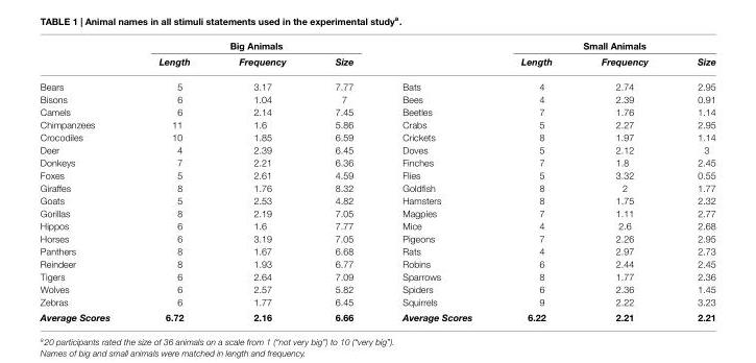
<table><thead><tr><td rowspan="2"></td><td colspan="3">Big Animals</td><td rowspan="2"></td><td colspan="3">Small Animals</td></tr><tr><td>Length</td><td>Frequency</td><td>Size</td><td>Length</td><td>Frequency</td><td>Size</td></tr></thead><tbody><tr><td>Bears</td><td>5</td><td>3.17</td><td>7.77</td><td>Bats</td><td>4</td><td>2.74</td><td>2.95</td></tr><tr><td>Bisons</td><td>6</td><td>1.04</td><td>7</td><td>Bees</td><td>4</td><td>2.39</td><td>0.91</td></tr><tr><td>Camels</td><td>6</td><td>2.14</td><td>7.45</td><td>Beetles</td><td>7</td><td>1.76</td><td>1.14</td></tr><tr><td>Chimpanzees</td><td>11</td><td>1.6</td><td>5.86</td><td>Crabs</td><td>5</td><td>2.27</td><td>2.95</td></tr><tr><td>Crocodiles</td><td>10</td><td>1.85</td><td>6.59</td><td>Crickets</td><td>8</td><td>1.97</td><td>1.14</td></tr><tr><td>Deer</td><td>4</td><td>2.39</td><td>6.45</td><td>Doves</td><td>5</td><td>2.12</td><td>3</td></tr><tr><td>Donkeys</td><td>7</td><td>2.21</td><td>6.36</td><td>Finches</td><td>7</td><td>1.8</td><td>2.45</td></tr><tr><td>Foxes</td><td>5</td><td>2.61</td><td>4.59</td><td>Flies</td><td>5</td><td>3.32</td><td>0.55</td></tr><tr><td>Giraffes</td><td>8</td><td>1.76</td><td>8.32</td><td>Goldfish</td><td>8</td><td>2</td><td>1.77</td></tr><tr><td>Goats</td><td>5</td><td>2.53</td><td>4.82</td><td>Hamsters</td><td>8</td><td>1.75</td><td>2.32</td></tr><tr><td>Gorillas</td><td>8</td><td>2.19</td><td>7.05</td><td>Magpies</td><td>7</td><td>1.11</td><td>2.77</td></tr><tr><td>Hippos</td><td>6</td><td>1.6</td><td>7.77</td><td>Mice</td><td>4</td><td>2.6</td><td>2.68</td></tr><tr><td>Horses</td><td>6</td><td>3.19</td><td>7.05</td><td>Pigeons</td><td>7</td><td>2.26</td><td>2.95</td></tr><tr><td>Panthers</td><td>8</td><td>1.67</td><td>6.68</td><td>Rats</td><td>4</td><td>2.97</td><td>2.73</td></tr><tr><td>Reindeer</td><td>8</td><td>1.93</td><td>6.77</td><td>Robins</td><td>6</td><td>2.44</td><td>2.45</td></tr><tr><td>Tigers</td><td>6</td><td>2.64</td><td>7.09</td><td>Sparrows</td><td>8</td><td>1.77</td><td>2.36</td></tr><tr><td>Wolves</td><td>6</td><td>2.57</td><td>5.82</td><td>Spiders</td><td>6</td><td>2.36</td><td>1.45</td></tr><tr><td>Zebras</td><td>6</td><td>1.77</td><td>6.45</td><td>Squirrels</td><td>9</td><td>2.22</td><td>3.23</td></tr><tr><td>Average Scores</td><td>6.72</td><td>2.16</td><td>6.66</td><td>Average Scores</td><td>6.22</td><td>2.21</td><td>2.21</td></tr></tbody></table>